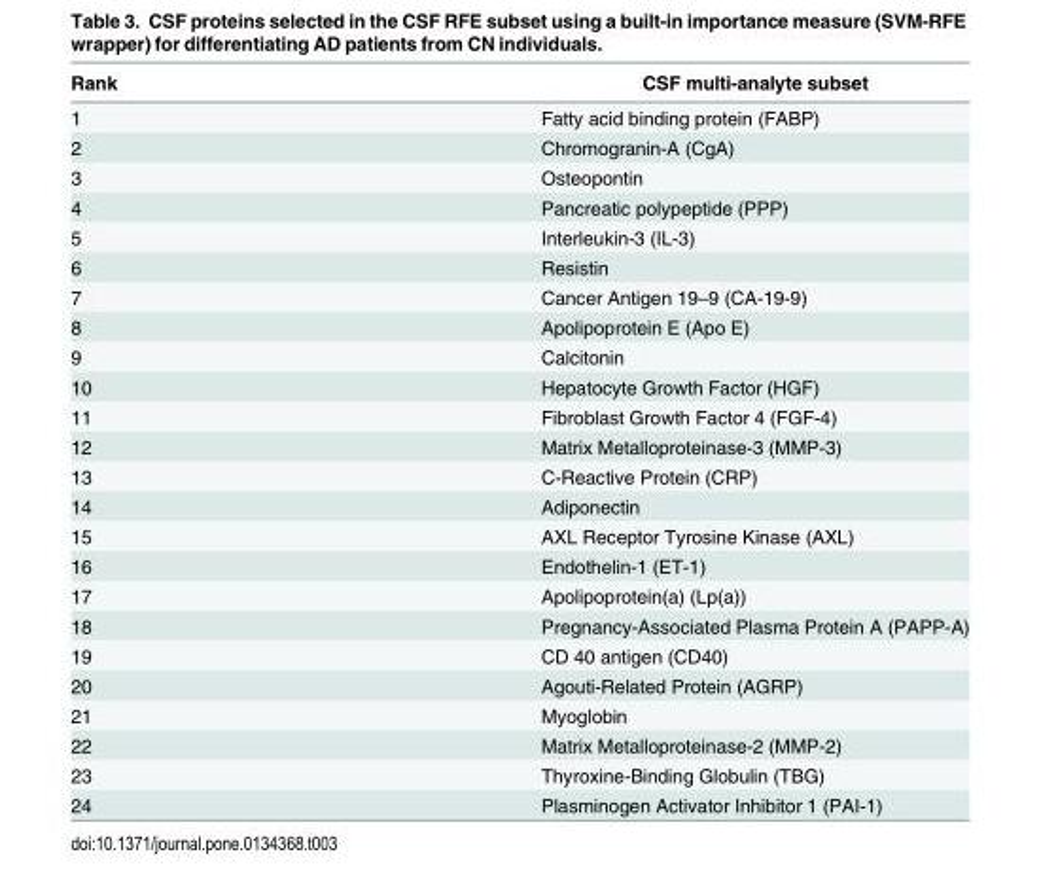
<table><thead><tr><td>Rank</td><td>CSF multi-analyte subset</td></tr></thead><tbody><tr><td>1</td><td>Fatty acid binding protein (FABP)</td></tr><tr><td>2</td><td>Chromogranin-A (CgA)</td></tr><tr><td>3</td><td>Osteopontin</td></tr><tr><td>4</td><td>Pancreatic polypeptide (PPP)</td></tr><tr><td>5</td><td>Interleukin-3 (IL-3)</td></tr><tr><td>6</td><td>Resistin</td></tr><tr><td>7</td><td>Cancer Antigen 19–9 (CA-19-9)</td></tr><tr><td>8</td><td>Apolipoprotein E (Apo E)</td></tr><tr><td>9</td><td>Calcitonin</td></tr><tr><td>10</td><td>Hepatocyte Growth Factor (HGF)</td></tr><tr><td>11</td><td>Fibroblast Growth Factor 4 (FGF-4)</td></tr><tr><td>12</td><td>Matrix Metalloproteinase-3 (MMP-3)</td></tr><tr><td>13</td><td>C-Reactive Protein (CRP)</td></tr><tr><td>14</td><td>Adiponectin</td></tr><tr><td>15</td><td>AXL Receptor Tyrosine Kinase (AXL)</td></tr><tr><td>16</td><td>Endothelin-1 (ET-1)</td></tr><tr><td>17</td><td>Apolipoprotein(a) (Lp(a))</td></tr><tr><td>18</td><td>Pregnancy-Associated Plasma Protein A (PAPP-A)</td></tr><tr><td>19</td><td>CD 40 antigen (CD40)</td></tr><tr><td>20</td><td>Agouti-Related Protein (AGRP)</td></tr><tr><td>21</td><td>Myoglobin</td></tr><tr><td>22</td><td>Matrix Metalloproteinase-2 (MMP-2)</td></tr><tr><td>23</td><td>Thyroxine-Binding Globulin (TBG)</td></tr><tr><td>24</td><td>Plasminogen Activator Inhibitor 1 (PAI-1)</td></tr></tbody></table>